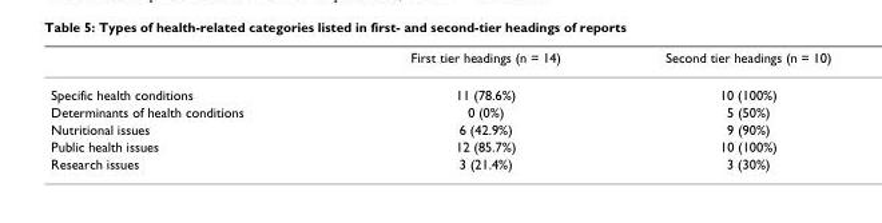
<table><thead><tr><td></td><td>First tier headings (n = 14)</td><td>Second tier headings (n = 10)</td></tr></thead><tbody><tr><td>Specific health conditions</td><td>11 (78.6%)</td><td>10 (100%)</td></tr><tr><td>Determinants of health conditions</td><td>0 (0%)</td><td>5 (50%)</td></tr><tr><td>Nutritional issues</td><td>6 (42.9%)</td><td>9 (90%)</td></tr><tr><td>Public health issues</td><td>12 (85.7%)</td><td>10 (100%)</td></tr><tr><td>Research issues</td><td>3 (21.4%)</td><td>3 (30%)</td></tr></tbody></table>